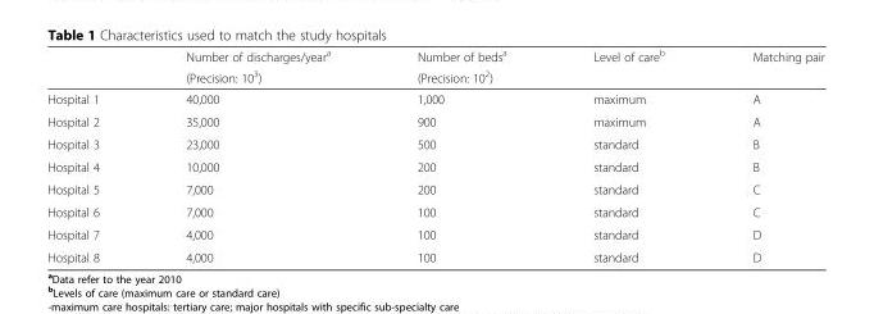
<table><thead><tr><td rowspan="2"></td><td rowspan="2">Number of discharges/year<sup>a</sup> (Precision: 10<sup>3</sup>)</td><td rowspan="2">Number of beds<sup>a</sup> (Precision: 10<sup>2</sup>)</td><td rowspan="2">Level of care<sup>b</sup></td><td rowspan="2">Matching pair</td></tr><tr></tr></thead><tbody><tr><td>Hospital 1</td><td>40,000</td><td>1,000</td><td>maximum</td><td>A</td></tr><tr><td>Hospital 2</td><td>35,000</td><td>900</td><td>maximum</td><td>A</td></tr><tr><td>Hospital 3</td><td>23,000</td><td>500</td><td>standard</td><td>B</td></tr><tr><td>Hospital 4</td><td>10,000</td><td>200</td><td>standard</td><td>B</td></tr><tr><td>Hospital 5</td><td>7,000</td><td>200</td><td>standard</td><td>C</td></tr><tr><td>Hospital 6</td><td>7,000</td><td>100</td><td>standard</td><td>C</td></tr><tr><td>Hospital 7</td><td>4,000</td><td>100</td><td>standard</td><td>D</td></tr><tr><td>Hospital 8</td><td>4,000</td><td>100</td><td>standard</td><td>D</td></tr></tbody></table>